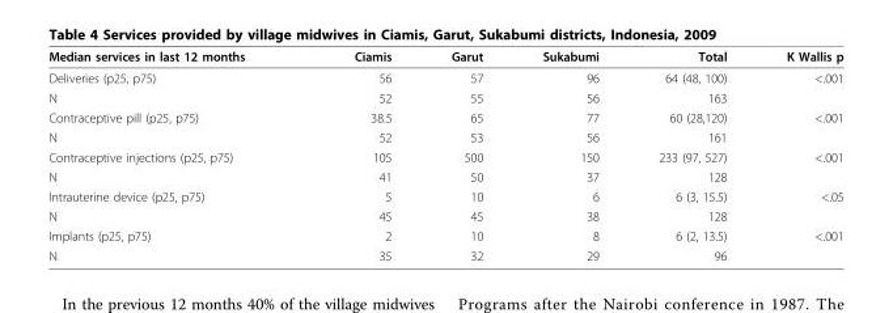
<table><thead><tr><td>Median services in last 12 months</td><td>Ciamis</td><td>Garut</td><td>Sukabumi</td><td>Total</td><td>K Wallis p</td></tr></thead><tbody><tr><td>Deliveries (p25, p75)</td><td>56</td><td>57</td><td>96</td><td>64 (48, 100)</td><td>&lt;.001</td></tr><tr><td>N</td><td>52</td><td>55</td><td>56</td><td>163</td><td></td></tr><tr><td>Contraceptive pill (p25, p75)</td><td>38.5</td><td>65</td><td>77</td><td>60 (28,120)</td><td>&lt;.001</td></tr><tr><td>N</td><td>52</td><td>53</td><td>56</td><td>161</td><td></td></tr><tr><td>Contraceptive injections (p25, p75)</td><td>105</td><td>500</td><td>150</td><td>233 (97, 527)</td><td>&lt;.001</td></tr><tr><td>N</td><td>41</td><td>50</td><td>37</td><td>128</td><td></td></tr><tr><td>Intrauterine device (p25, p75)</td><td>5</td><td>10</td><td>6</td><td>6 (3, 15.5)</td><td>&lt;.05</td></tr><tr><td>N</td><td>45</td><td>45</td><td>38</td><td>128</td><td></td></tr><tr><td>Implants (p25, p75)</td><td>2</td><td>10</td><td>8</td><td>6 (2, 13.5)</td><td>&lt;.001</td></tr><tr><td>N</td><td>35</td><td>32</td><td>29</td><td>96</td><td></td></tr></tbody></table>